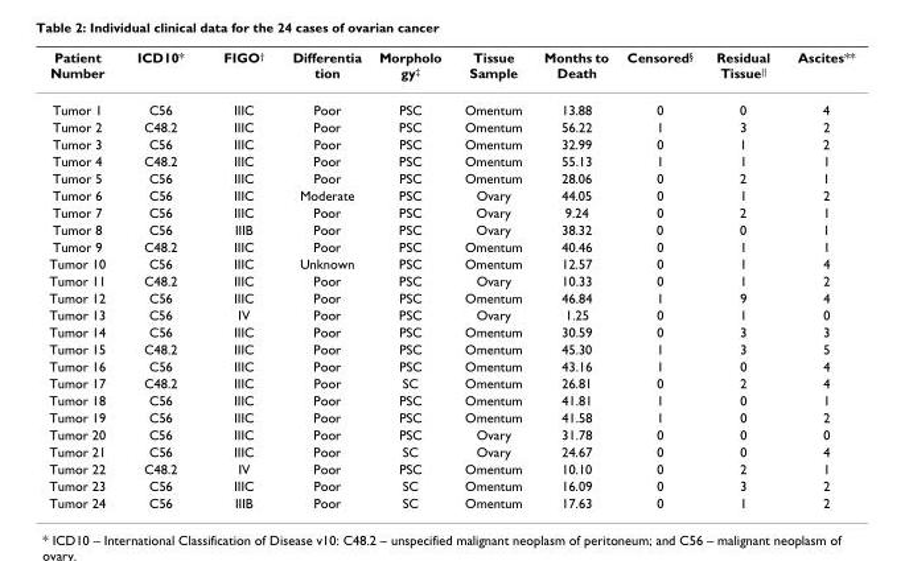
<table><thead><tr><td>Patient Number</td><td>ICD10*</td><td>FIGO†</td><td>Differentia tion</td><td>Morpholo gy‡</td><td>Tissue Sample</td><td>Months to Death</td><td>Censored§</td><td>Residual Tissue||</td><td>Ascites**</td></tr></thead><tbody><tr><td>Tumor 1</td><td>C56</td><td>IIIC</td><td>Poor</td><td>PSC</td><td>Omentum</td><td>13.88</td><td>0</td><td>0</td><td>4</td></tr><tr><td>Tumor 2</td><td>C48.2</td><td>IIIC</td><td>Poor</td><td>PSC</td><td>Omentum</td><td>56.22</td><td>1</td><td>3</td><td>2</td></tr><tr><td>Tumor 3</td><td>C56</td><td>IIIC</td><td>Poor</td><td>PSC</td><td>Omentum</td><td>32.99</td><td>0</td><td>1</td><td>2</td></tr><tr><td>Tumor 4</td><td>C48.2</td><td>IIIC</td><td>Poor</td><td>PSC</td><td>Omentum</td><td>55.13</td><td>1</td><td>1</td><td>1</td></tr><tr><td>Tumor 5</td><td>C56</td><td>IIIC</td><td>Poor</td><td>PSC</td><td>Omentum</td><td>28.06</td><td>0</td><td>2</td><td>1</td></tr><tr><td>Tumor 6</td><td>C56</td><td>IIIC</td><td>Moderate</td><td>PSC</td><td>Ovary</td><td>44.05</td><td>0</td><td>1</td><td>2</td></tr><tr><td>Tumor 7</td><td>C56</td><td>IIIC</td><td>Poor</td><td>PSC</td><td>Ovary</td><td>9.24</td><td>0</td><td>2</td><td>1</td></tr><tr><td>Tumor 8</td><td>C56</td><td>IIIB</td><td>Poor</td><td>PSC</td><td>Ovary</td><td>38.32</td><td>0</td><td>0</td><td>1</td></tr><tr><td>Tumor 9</td><td>C48.2</td><td>IIIC</td><td>Poor</td><td>PSC</td><td>Omentum</td><td>40.46</td><td>0</td><td>1</td><td>1</td></tr><tr><td>Tumor 10</td><td>C56</td><td>IIIC</td><td>Unknown</td><td>PSC</td><td>Omentum</td><td>12.57</td><td>0</td><td>1</td><td>4</td></tr><tr><td>Tumor 11</td><td>C48.2</td><td>IIIC</td><td>Poor</td><td>PSC</td><td>Ovary</td><td>10.33</td><td>0</td><td>1</td><td>2</td></tr><tr><td>Tumor 12</td><td>C56</td><td>IIIC</td><td>Poor</td><td>PSC</td><td>Omentum</td><td>46.84</td><td>1</td><td>9</td><td>4</td></tr><tr><td>Tumor 13</td><td>C56</td><td>IV</td><td>Poor</td><td>PSC</td><td>Ovary</td><td>1.25</td><td>0</td><td>1</td><td>0</td></tr><tr><td>Tumor 14</td><td>C56</td><td>IIIC</td><td>Poor</td><td>PSC</td><td>Omentum</td><td>30.59</td><td>0</td><td>3</td><td>3</td></tr><tr><td>Tumor 15</td><td>C48.2</td><td>IIIC</td><td>Poor</td><td>PSC</td><td>Omentum</td><td>45.30</td><td>1</td><td>3</td><td>5</td></tr><tr><td>Tumor 16</td><td>C56</td><td>IIIC</td><td>Poor</td><td>PSC</td><td>Omentum</td><td>43.16</td><td>1</td><td>0</td><td>4</td></tr><tr><td>Tumor 17</td><td>C48.2</td><td>IIIC</td><td>Poor</td><td>SC</td><td>Omentum</td><td>26.81</td><td>0</td><td>2</td><td>4</td></tr><tr><td>Tumor 18</td><td>C56</td><td>IIIC</td><td>Poor</td><td>PSC</td><td>Omentum</td><td>41.81</td><td>1</td><td>0</td><td>1</td></tr><tr><td>Tumor 19</td><td>C56</td><td>IIIC</td><td>Poor</td><td>PSC</td><td>Omentum</td><td>41.58</td><td>1</td><td>0</td><td>2</td></tr><tr><td>Tumor 20</td><td>C56</td><td>IIIC</td><td>Poor</td><td>PSC</td><td>Ovary</td><td>31.78</td><td>0</td><td>0</td><td>0</td></tr><tr><td>Tumor 21</td><td>C56</td><td>IIIC</td><td>Poor</td><td>SC</td><td>Ovary</td><td>24.67</td><td>0</td><td>0</td><td>4</td></tr><tr><td>Tumor 22</td><td>C48.2</td><td>IV</td><td>Poor</td><td>PSC</td><td>Omentum</td><td>10.10</td><td>0</td><td>2</td><td>1</td></tr><tr><td>Tumor 23</td><td>C56</td><td>IIIC</td><td>Poor</td><td>SC</td><td>Omentum</td><td>16.09</td><td>0</td><td>3</td><td>2</td></tr><tr><td>Tumor 24</td><td>C56</td><td>IIIB</td><td>Poor</td><td>SC</td><td>Omentum</td><td>17.63</td><td>0</td><td>1</td><td>2</td></tr></tbody></table>